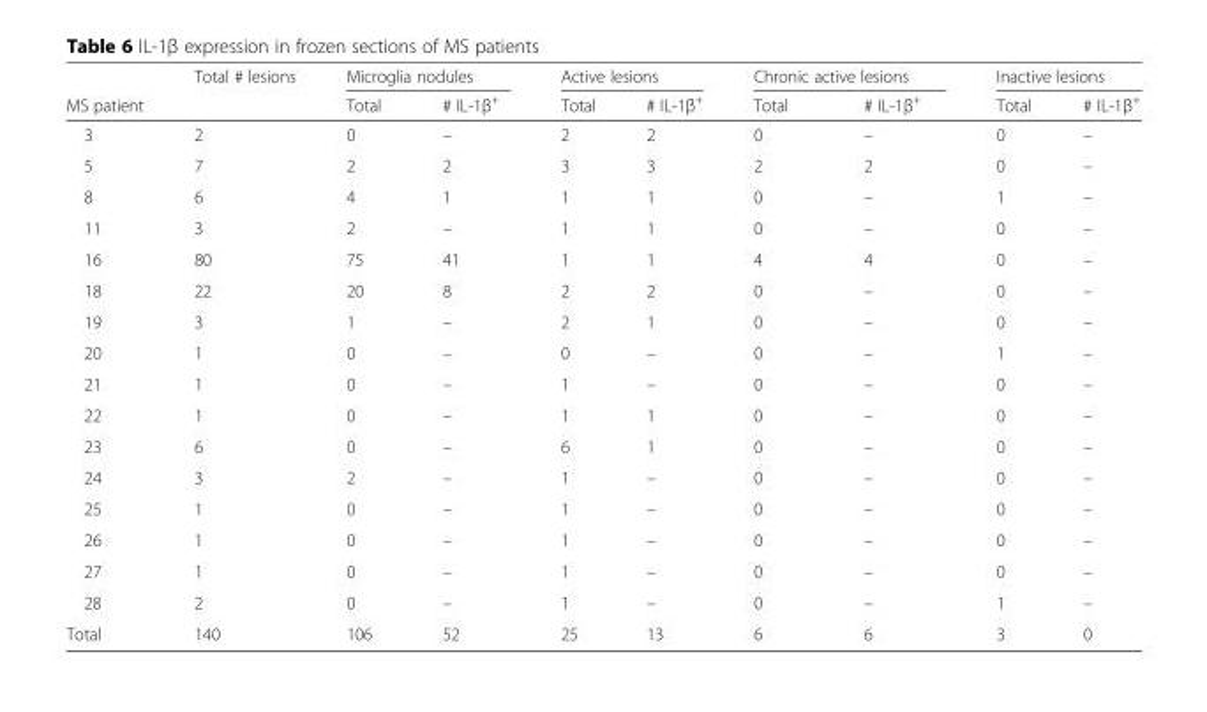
<table><thead><tr><td rowspan="2">MS patient</td><td rowspan="2">Total # lesions</td><td colspan="2">Microglia nodules</td><td colspan="2">Active lesions</td><td colspan="2">Chronic active lesions</td><td colspan="2">Inactive lesions</td></tr><tr><td>Total</td><td># IL-1β<sup>+</sup></td><td>Total</td><td># IL-1β<sup>+</sup></td><td>Total</td><td># IL-1β<sup>+</sup></td><td>Total</td><td># IL-1β<sup>+</sup></td></tr></thead><tbody><tr><td>3</td><td>2</td><td>0</td><td>–</td><td>2</td><td>2</td><td>0</td><td>–</td><td>0</td><td>–</td></tr><tr><td>5</td><td>7</td><td>2</td><td>2</td><td>3</td><td>3</td><td>2</td><td>2</td><td>0</td><td>–</td></tr><tr><td>8</td><td>6</td><td>4</td><td>1</td><td>1</td><td>1</td><td>0</td><td>–</td><td>1</td><td>–</td></tr><tr><td>11</td><td>3</td><td>2</td><td>–</td><td>1</td><td>1</td><td>0</td><td>–</td><td>0</td><td>–</td></tr><tr><td>16</td><td>80</td><td>75</td><td>41</td><td>1</td><td>1</td><td>4</td><td>4</td><td>0</td><td>–</td></tr><tr><td>18</td><td>22</td><td>20</td><td>8</td><td>2</td><td>2</td><td>0</td><td>–</td><td>0</td><td>–</td></tr><tr><td>19</td><td>3</td><td>1</td><td>–</td><td>2</td><td>1</td><td>0</td><td>–</td><td>0</td><td>–</td></tr><tr><td>20</td><td>1</td><td>0</td><td>–</td><td>0</td><td>–</td><td>0</td><td>–</td><td>1</td><td>–</td></tr><tr><td>21</td><td>1</td><td>0</td><td>–</td><td>1</td><td>–</td><td>0</td><td>–</td><td>0</td><td>–</td></tr><tr><td>22</td><td>1</td><td>0</td><td>–</td><td>1</td><td>1</td><td>0</td><td>–</td><td>0</td><td>–</td></tr><tr><td>23</td><td>6</td><td>0</td><td>–</td><td>6</td><td>1</td><td>0</td><td>–</td><td>0</td><td>–</td></tr><tr><td>24</td><td>3</td><td>2</td><td>–</td><td>1</td><td>–</td><td>0</td><td>–</td><td>0</td><td>–</td></tr><tr><td>25</td><td>1</td><td>0</td><td>–</td><td>1</td><td>–</td><td>0</td><td>–</td><td>0</td><td>–</td></tr><tr><td>26</td><td>1</td><td>0</td><td>–</td><td>1</td><td>–</td><td>0</td><td>–</td><td>0</td><td>–</td></tr><tr><td>27</td><td>1</td><td>0</td><td>–</td><td>1</td><td>–</td><td>0</td><td>–</td><td>0</td><td>–</td></tr><tr><td>28</td><td>2</td><td>0</td><td>–</td><td>1</td><td>–</td><td>0</td><td>–</td><td>1</td><td>–</td></tr><tr><td>Total</td><td>140</td><td>106</td><td>52</td><td>25</td><td>13</td><td>6</td><td>6</td><td>3</td><td>0</td></tr></tbody></table>